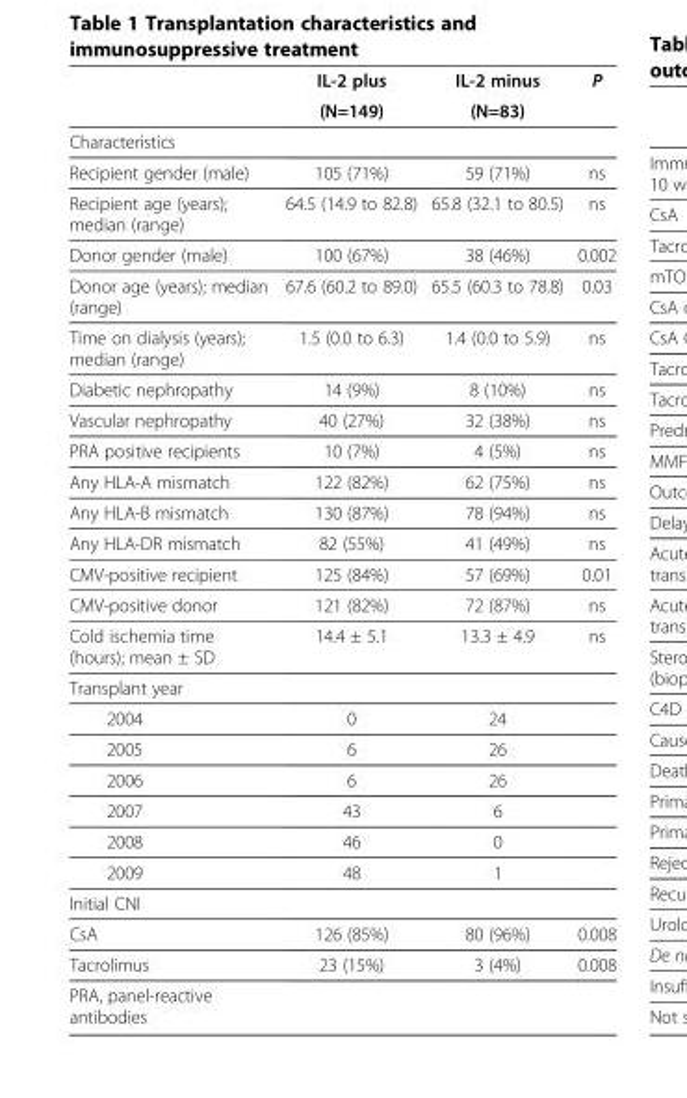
<table><thead><tr><td rowspan="2"></td><td rowspan="2">IL-2 plus (N=149)</td><td rowspan="2">IL-2 minus (N=83)</td><td rowspan="2">P</td></tr><tr></tr></thead><tbody><tr><td colspan="4">Characteristics</td></tr><tr><td>Recipient gender (male)</td><td>105 (71%)</td><td>59 (71%)</td><td>ns</td></tr><tr><td>Recipient age (years); median (range)</td><td>64.5 (14.9 to 82.8)</td><td>65.8 (32.1 to 80.5)</td><td>ns</td></tr><tr><td>Donor gender (male)</td><td>100 (67%)</td><td>38 (46%)</td><td>0.002</td></tr><tr><td>Donor age (years); median (range)</td><td>67.6 (60.2 to 89.0)</td><td>65.5 (60.3 to 78.8)</td><td>0.03</td></tr><tr><td>Time on dialysis (years); median (range)</td><td>1.5 (0.0 to 6.3)</td><td>1.4 (0.0 to 5.9)</td><td>ns</td></tr><tr><td>Diabetic nephropathy</td><td>14 (9%)</td><td>8 (10%)</td><td>ns</td></tr><tr><td>Vascular nephropathy</td><td>40 (27%)</td><td>32 (38%)</td><td>ns</td></tr><tr><td>PRA positive recipients</td><td>10 (7%)</td><td>4 (5%)</td><td>ns</td></tr><tr><td>Any HLA-A mismatch</td><td>122 (82%)</td><td>62 (75%)</td><td>ns</td></tr><tr><td>Any HLA-B mismatch</td><td>130 (87%)</td><td>78 (94%)</td><td>ns</td></tr><tr><td>Any HLA-DR mismatch</td><td>82 (55%)</td><td>41 (49%)</td><td>ns</td></tr><tr><td>CMV-positive recipient</td><td>125 (84%)</td><td>57 (69%)</td><td>0.01</td></tr><tr><td>CMV-positive donor</td><td>121 (82%)</td><td>72 (87%)</td><td>ns</td></tr><tr><td>Cold ischemia time (hours); mean ± SD</td><td>14.4 ± 5.1</td><td>13.3 ± 4.9</td><td>ns</td></tr><tr><td colspan="4">Transplant year</td></tr><tr><td>2004</td><td>0</td><td>24</td><td></td></tr><tr><td>2005</td><td>6</td><td>26</td><td></td></tr><tr><td>2006</td><td>6</td><td>26</td><td></td></tr><tr><td>2007</td><td>43</td><td>6</td><td></td></tr><tr><td>2008</td><td>46</td><td>0</td><td></td></tr><tr><td>2009</td><td>48</td><td>1</td><td></td></tr><tr><td colspan="4">Initial CNI</td></tr><tr><td>CsA</td><td>126 (85%)</td><td>80 (96%)</td><td>0.008</td></tr><tr><td>Tacrolimus</td><td>23 (15%)</td><td>3 (4%)</td><td>0.008</td></tr><tr><td>PRA, panel-reactive antibodies</td><td></td><td></td><td></td></tr></tbody></table>